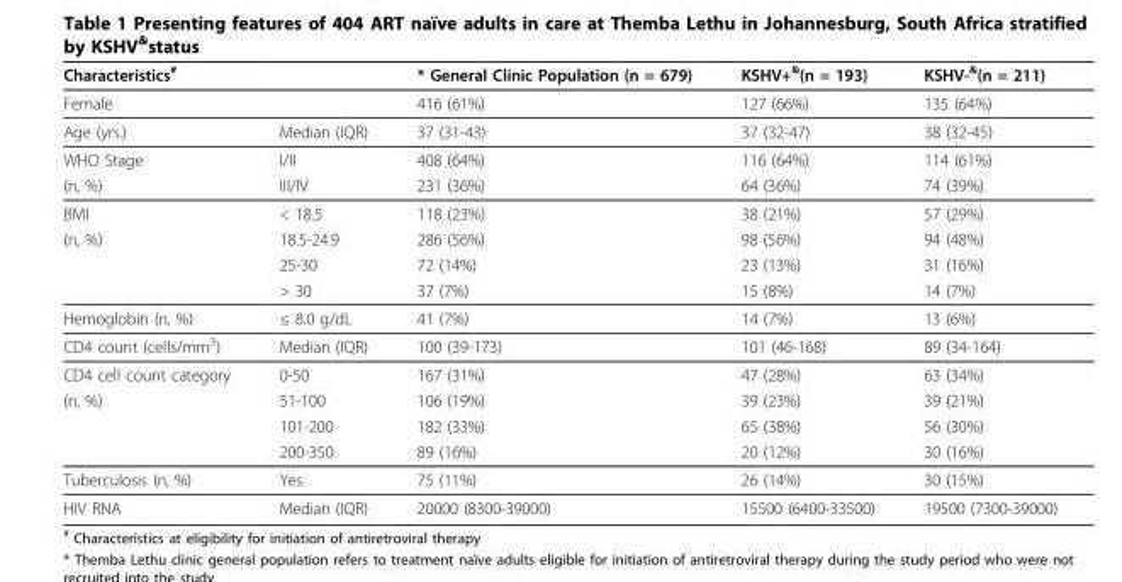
<table><thead><tr><td>Characteristics<sup>#</sup></td><td></td><td>* General Clinic Population (n = 679)</td><td>KSHV+<sup>&amp;</sup>(n = 193)</td><td>KSHV-<sup>&amp;</sup>(n = 211)</td></tr></thead><tbody><tr><td>Female</td><td></td><td>416 (61%)</td><td>127 (66%)</td><td>135 (64%)</td></tr><tr><td>Age (yrs.)</td><td>Median (IQR)</td><td>37 (31-43)</td><td>37 (32-47)</td><td>38 (32-45)</td></tr><tr><td>WHO Stage</td><td>I/II</td><td>408 (64%)</td><td>116 (64%)</td><td>114 (61%)</td></tr><tr><td>(n, %)</td><td>III/IV</td><td>231 (36%)</td><td>64 (36%)</td><td>74 (39%)</td></tr><tr><td>BMI</td><td>&lt; 18.5</td><td>118 (23%)</td><td>38 (21%)</td><td>57 (29%)</td></tr><tr><td rowspan="3">(n, %)</td><td>18.5-24.9</td><td>286 (56%)</td><td>98 (56%)</td><td>94 (48%)</td></tr><tr><td>25-30</td><td>72 (14%)</td><td>23 (13%)</td><td>31 (16%)</td></tr><tr><td>&gt; 30</td><td>37 (7%)</td><td>15 (8%)</td><td>14 (7%)</td></tr><tr><td>Hemoglobin (n, %)</td><td>≤ 8.0 g/dL</td><td>41 (7%)</td><td>14 (7%)</td><td>13 (6%)</td></tr><tr><td>CD4 count (cells/mm<sup>3</sup>)</td><td>Median (IQR)</td><td>100 (39-173)</td><td>101 (46-168)</td><td>89 (34-164)</td></tr><tr><td>CD4 cell count category</td><td>0-50</td><td>167 (31%)</td><td>47 (28%)</td><td>63 (34%)</td></tr><tr><td rowspan="3">(n, %)</td><td>51-100</td><td>106 (19%)</td><td>39 (23%)</td><td>39 (21%)</td></tr><tr><td>101-200</td><td>182 (33%)</td><td>65 (38%)</td><td>56 (30%)</td></tr><tr><td>200-350</td><td>89 (16%)</td><td>20 (12%)</td><td>30 (16%)</td></tr><tr><td>Tuberculosis (n, %)</td><td>Yes</td><td>75 (11%)</td><td>26 (14%)</td><td>30 (15%)</td></tr><tr><td>HIV RNA</td><td>Median (IQR)</td><td>20000 (8300-39000)</td><td>15500 (6400-33500)</td><td>19500 (7300-39000)</td></tr></tbody></table>